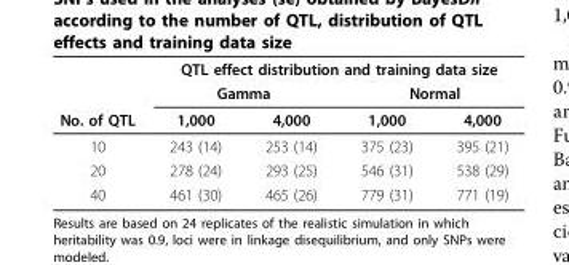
<table><thead><tr><td rowspan="3">No. of QTL</td><td colspan="4">QTL effect distribution and training data size</td></tr><tr><td colspan="2">Gamma</td><td colspan="2">Normal</td></tr><tr><td>1,000</td><td>4,000</td><td>1,000</td><td>4,000</td></tr></thead><tbody><tr><td>10</td><td>243 (14)</td><td>253 (14)</td><td>375 (23)</td><td>395 (21)</td></tr><tr><td>20</td><td>278 (24)</td><td>293 (25)</td><td>546 (31)</td><td>538 (29)</td></tr><tr><td>40</td><td>461 (30)</td><td>465 (26)</td><td>779 (31)</td><td>771 (19)</td></tr></tbody></table>